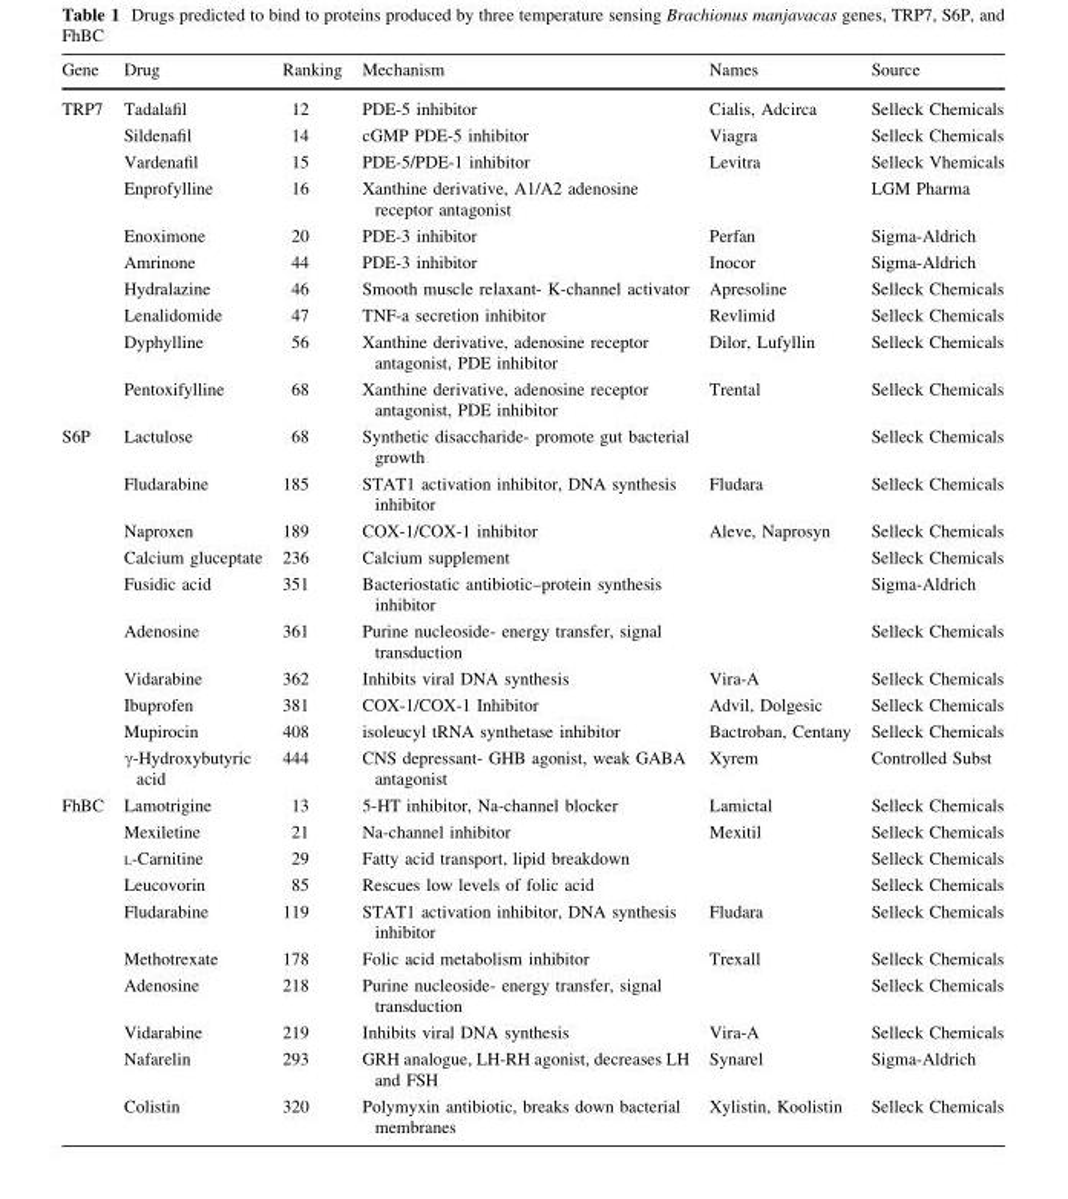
<table><thead><tr><td>Gene</td><td>Drug</td><td>Ranking</td><td>Mechanism</td><td>Names</td><td>Source</td></tr></thead><tbody><tr><td rowspan="10">TRP7</td><td>Tadalafil</td><td>12</td><td>PDE-5 inhibitor</td><td>Cialis, Adcirca</td><td>Selleck Chemicals</td></tr><tr><td>Sildenafil</td><td>14</td><td>cGMP PDE-5 inhibitor</td><td>Viagra</td><td>Selleck Chemicals</td></tr><tr><td>Vardenafil</td><td>15</td><td>PDE-5/PDE-1 inhibitor</td><td>Levitra</td><td>Selleck Vhemicals</td></tr><tr><td>Enprofylline</td><td>16</td><td>Xanthine derivative, A1/A2 adenosine receptor antagonist</td><td></td><td>LGM Pharma</td></tr><tr><td>Enoximone</td><td>20</td><td>PDE-3 inhibitor</td><td>Perfan</td><td>Sigma-Aldrich</td></tr><tr><td>Amrinone</td><td>44</td><td>PDE-3 inhibitor</td><td>Inocor</td><td>Sigma-Aldrich</td></tr><tr><td>Hydralazine</td><td>46</td><td>Smooth muscle relaxant- K-channel activator</td><td>Apresoline</td><td>Selleck Chemicals</td></tr><tr><td>Lenalidomide</td><td>47</td><td>TNF-a secretion inhibitor</td><td>Revlimid</td><td>Selleck Chemicals</td></tr><tr><td>Dyphylline</td><td>56</td><td>Xanthine derivative, adenosine receptor antagonist, PDE inhibitor</td><td>Dilor, Lufyllin</td><td>Selleck Chemicals</td></tr><tr><td>Pentoxifylline</td><td>68</td><td>Xanthine derivative, adenosine receptor antagonist, PDE inhibitor</td><td>Trental</td><td>Selleck Chemicals</td></tr><tr><td rowspan="10">S6P</td><td>Lactulose</td><td>68</td><td>Synthetic disaccharide- promote gut bacterial growth</td><td></td><td>Selleck Chemicals</td></tr><tr><td>Fludarabine</td><td>185</td><td>STAT1 activation inhibitor, DNA synthesis inhibitor</td><td>Fludara</td><td>Selleck Chemicals</td></tr><tr><td>Naproxen</td><td>189</td><td>COX-1/COX-1 inhibitor</td><td>Aleve, Naprosyn</td><td>Selleck Chemicals</td></tr><tr><td>Calcium gluceptate</td><td>236</td><td>Calcium supplement</td><td></td><td>Selleck Chemicals</td></tr><tr><td>Fusidic acid</td><td>351</td><td>Bacteriostatic antibiotic–protein synthesis inhibitor</td><td></td><td>Sigma-Aldrich</td></tr><tr><td>Adenosine</td><td>361</td><td>Purine nucleoside- energy transfer, signal transduction</td><td></td><td>Selleck Chemicals</td></tr><tr><td>Vidarabine</td><td>362</td><td>Inhibits viral DNA synthesis</td><td>Vira-A</td><td>Selleck Chemicals</td></tr><tr><td>Ibuprofen</td><td>381</td><td>COX-1/COX-1 Inhibitor</td><td>Advil, Dolgesic</td><td>Selleck Chemicals</td></tr><tr><td>Mupirocin</td><td>408</td><td>isoleucyl tRNA synthetase inhibitor</td><td>Bactroban, Centany</td><td>Selleck Chemicals</td></tr><tr><td>γ-Hydroxybutyric acid</td><td>444</td><td>CNS depressant- GHB agonist, weak GABA antagonist</td><td>Xyrem</td><td>Controlled Subst</td></tr><tr><td rowspan="10">FhBC</td><td>Lamotrigine</td><td>13</td><td>5-HT inhibitor, Na-channel blocker</td><td>Lamictal</td><td>Selleck Chemicals</td></tr><tr><td>Mexiletine</td><td>21</td><td>Na-channel inhibitor</td><td>Mexitil</td><td>Selleck Chemicals</td></tr><tr><td>L-Carnitine</td><td>29</td><td>Fatty acid transport, lipid breakdown</td><td></td><td>Selleck Chemicals</td></tr><tr><td>Leucovorin</td><td>85</td><td>Rescues low levels of folic acid</td><td></td><td>Selleck Chemicals</td></tr><tr><td>Fludarabine</td><td>119</td><td>STAT1 activation inhibitor, DNA synthesis inhibitor</td><td>Fludara</td><td>Selleck Chemicals</td></tr><tr><td>Methotrexate</td><td>178</td><td>Folic acid metabolism inhibitor</td><td>Trexall</td><td>Selleck Chemicals</td></tr><tr><td>Adenosine</td><td>218</td><td>Purine nucleoside- energy transfer, signal transduction</td><td></td><td>Selleck Chemicals</td></tr><tr><td>Vidarabine</td><td>219</td><td>Inhibits viral DNA synthesis</td><td>Vira-A</td><td>Selleck Chemicals</td></tr><tr><td>Nafarelin</td><td>293</td><td>GRH analogue, LH-RH agonist, decreases LH and FSH</td><td>Synarel</td><td>Sigma-Aldrich</td></tr><tr><td>Colistin</td><td>320</td><td>Polymyxin antibiotic, breaks down bacterial membranes</td><td>Xylistin, Koolistin</td><td>Selleck Chemicals</td></tr></tbody></table>